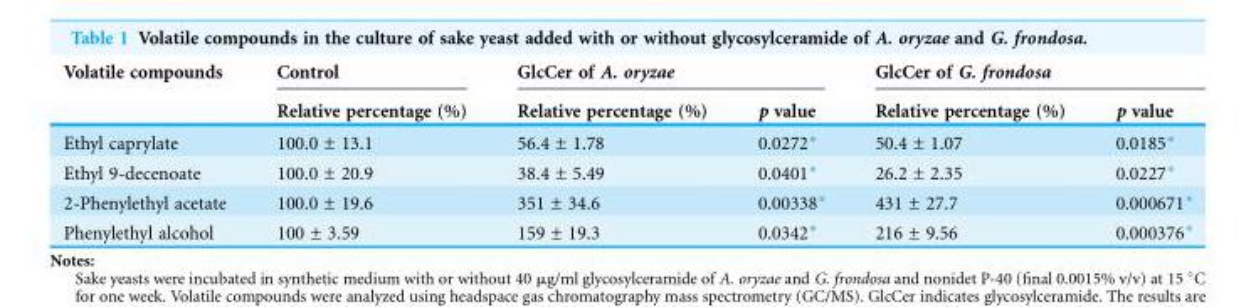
<table><thead><tr><td rowspan="2">Volatile compounds</td><td rowspan="2">Control Relative percentage (%)</td><td colspan="2">GlcCer of A. oryzae</td><td colspan="2">GlcCer of G. frondosa</td></tr><tr><td>Relative percentage (%)</td><td>p value</td><td>Relative percentage (%)</td><td>p value</td></tr></thead><tbody><tr><td>Ethyl caprylate</td><td>100.0 ± 13.1</td><td>56.4 ± 1.78</td><td>0.0272*</td><td>50.4 ± 1.07</td><td>0.0185*</td></tr><tr><td>Ethyl 9-decenoate</td><td>100.0 ± 20.9</td><td>38.4 ± 5.49</td><td>0.0401*</td><td>26.2 ± 2.35</td><td>0.0227*</td></tr><tr><td>2-Phenylethyl acetate</td><td>100.0 ± 19.6</td><td>351 ± 34.6</td><td>0.00338*</td><td>431 ± 27.7</td><td>0.000671*</td></tr><tr><td>Phenylethyl alcohol</td><td>100 ± 3.59</td><td>159 ± 19.3</td><td>0.0342*</td><td>216 ± 9.56</td><td>0.000376*</td></tr></tbody></table>